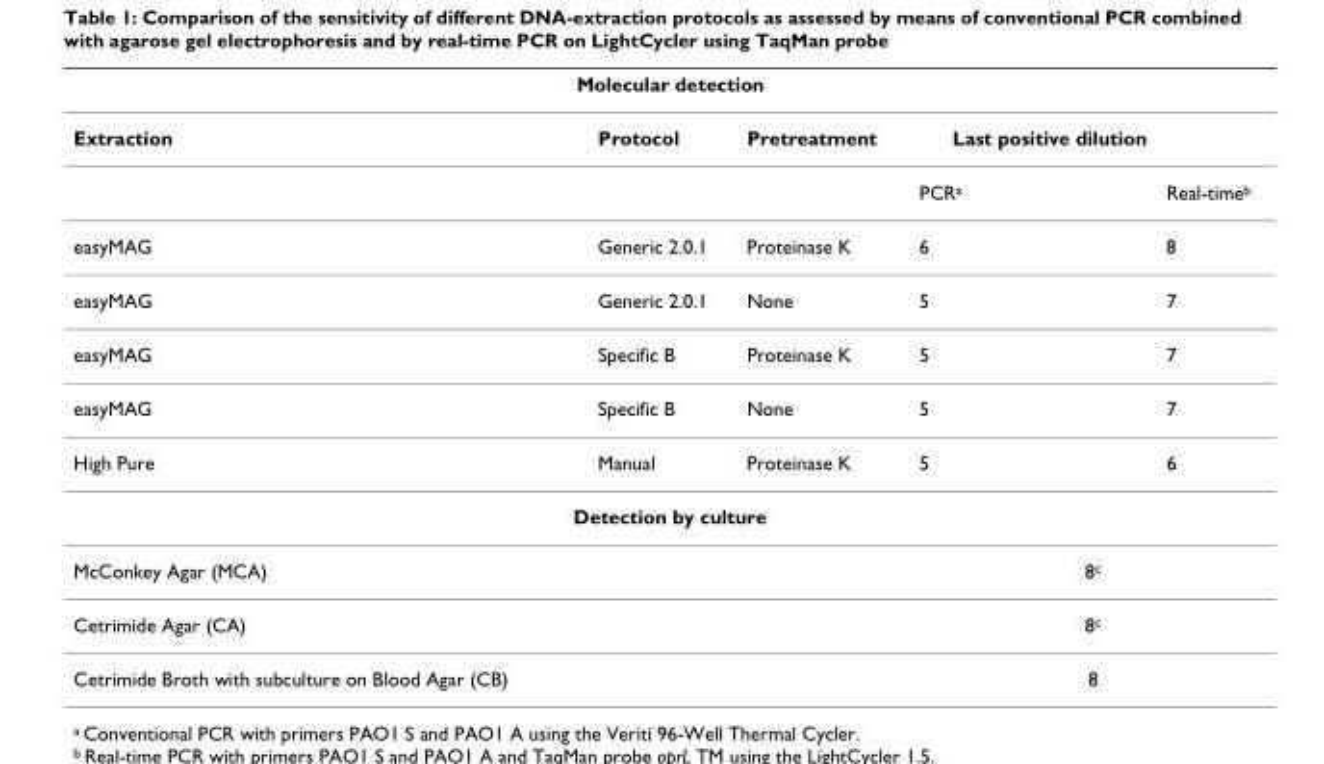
<table><thead><tr><td colspan="5">Molecular detection</td></tr><tr><td>Extraction</td><td>Protocol</td><td>Pretreatment</td><td>Last positive dilution</td><td></td></tr></thead><tbody><tr><td></td><td></td><td></td><td>PCR<sup>a</sup></td><td>Real-time<sup>b</sup></td></tr><tr><td>easyMAG</td><td>Generic 2.0.1</td><td>Proteinase K</td><td>6</td><td>8</td></tr><tr><td>easyMAG</td><td>Generic 2.0.1</td><td>None</td><td>5</td><td>7</td></tr><tr><td>easyMAG</td><td>Specific B</td><td>Proteinase K</td><td>5</td><td>7</td></tr><tr><td>easyMAG</td><td>Specific B</td><td>None</td><td>5</td><td>7</td></tr><tr><td>High Pure</td><td>Manual</td><td>Proteinase K</td><td>5</td><td>6</td></tr><tr><td colspan="5">Detection by culture</td></tr><tr><td>McConkey Agar (MCA)</td><td></td><td></td><td colspan="2">8<sup>c</sup></td></tr><tr><td>Cetrimide Agar (CA)</td><td></td><td></td><td colspan="2">8<sup>c</sup></td></tr><tr><td>Cetrimide Broth with subculture on Blood Agar (CB)</td><td></td><td></td><td colspan="2">8</td></tr></tbody></table>